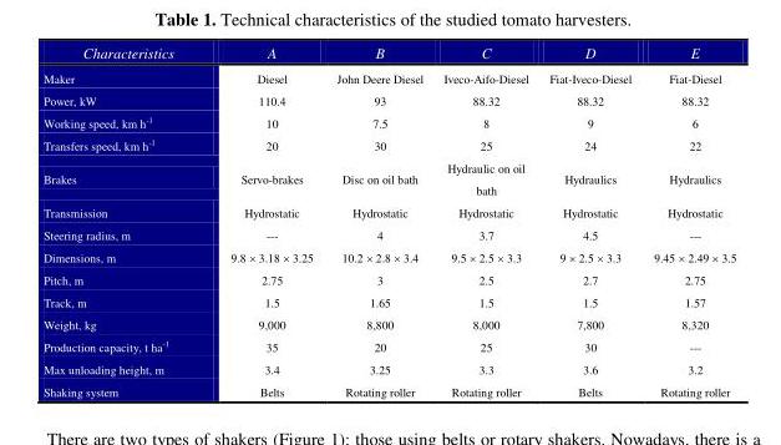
<table><thead><tr><td>Characteristics</td><td>A</td><td>B</td><td>C</td><td>D</td><td>E</td></tr></thead><tbody><tr><td>Maker</td><td>Diesel</td><td>John Deere Diesel</td><td>Iveco-Aifo-Diesel</td><td>Fiat-Iveco-Diesel</td><td>Fiat-Diesel</td></tr><tr><td>Power, kW</td><td>110.4</td><td>93</td><td>88.32</td><td>88.32</td><td>88.32</td></tr><tr><td>Working speed, km h<sup>-1</sup></td><td>10</td><td>7.5</td><td>8</td><td>9</td><td>6</td></tr><tr><td>Transfers speed, km h<sup>-1</sup></td><td>20</td><td>30</td><td>25</td><td>24</td><td>22</td></tr><tr><td>Brakes</td><td>Servo-brakes</td><td>Disc on oil bath</td><td>Hydraulic on oil bath</td><td>Hydraulics</td><td>Hydraulics</td></tr><tr><td>Transmission</td><td>Hydrostatic</td><td>Hydrostatic</td><td>Hydrostatic</td><td>Hydrostatic</td><td>Hydrostatic</td></tr><tr><td>Steering radius, m</td><td>---</td><td>4</td><td>3.7</td><td>4.5</td><td>---</td></tr><tr><td>Dimensions, m</td><td>9.8 × 3.18 × 3.25</td><td>10.2 × 2.8 × 3.4</td><td>9.5 × 2.5 × 3.3</td><td>9 × 2.5 × 3.3</td><td>9.45 × 2.49 × 3.5</td></tr><tr><td>Pitch, m</td><td>2.75</td><td>3</td><td>2.5</td><td>2.7</td><td>2.75</td></tr><tr><td>Track, m</td><td>1.5</td><td>1.65</td><td>1.5</td><td>1.5</td><td>1.57</td></tr><tr><td>Weight, kg</td><td>9,000</td><td>8,800</td><td>8,000</td><td>7,800</td><td>8,320</td></tr><tr><td>Production capacity, t ha<sup>-1</sup></td><td>35</td><td>20</td><td>25</td><td>30</td><td>---</td></tr><tr><td>Max unloading height, m</td><td>3.4</td><td>3.25</td><td>3.3</td><td>3.6</td><td>3.2</td></tr><tr><td>Shaking system</td><td>Belts</td><td>Rotating roller</td><td>Rotating roller</td><td>Belts</td><td>Rotating roller</td></tr></tbody></table>